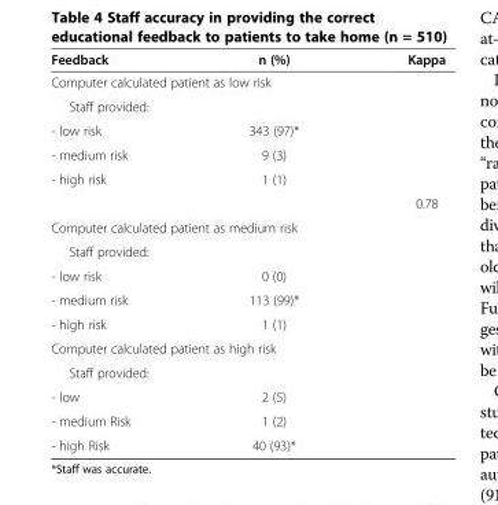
<table><thead><tr><td>Feedback</td><td>n (%)</td><td>Kappa</td></tr></thead><tbody><tr><td colspan="3">Computer calculated patient as low risk</td></tr><tr><td colspan="3">Staff provided:</td></tr><tr><td>- low risk</td><td>343 (97)*</td><td></td></tr><tr><td>- medium risk</td><td>9 (3)</td><td></td></tr><tr><td rowspan="2">- high risk</td><td>1 (1)</td><td></td></tr><tr><td></td><td>0.78</td></tr><tr><td colspan="3">Computer calculated patient as medium risk</td></tr><tr><td colspan="3">Staff provided:</td></tr><tr><td>- low risk</td><td>0 (0)</td><td></td></tr><tr><td>- medium risk</td><td>113 (99)*</td><td></td></tr><tr><td>- high risk</td><td>1 (1)</td><td></td></tr><tr><td colspan="3">Computer calculated patient as high risk</td></tr><tr><td colspan="3">Staff provided:</td></tr><tr><td>- low</td><td>2 (5)</td><td></td></tr><tr><td>- medium Risk</td><td>1 (2)</td><td></td></tr><tr><td>- high Risk</td><td>40 (93)*</td><td></td></tr></tbody></table>